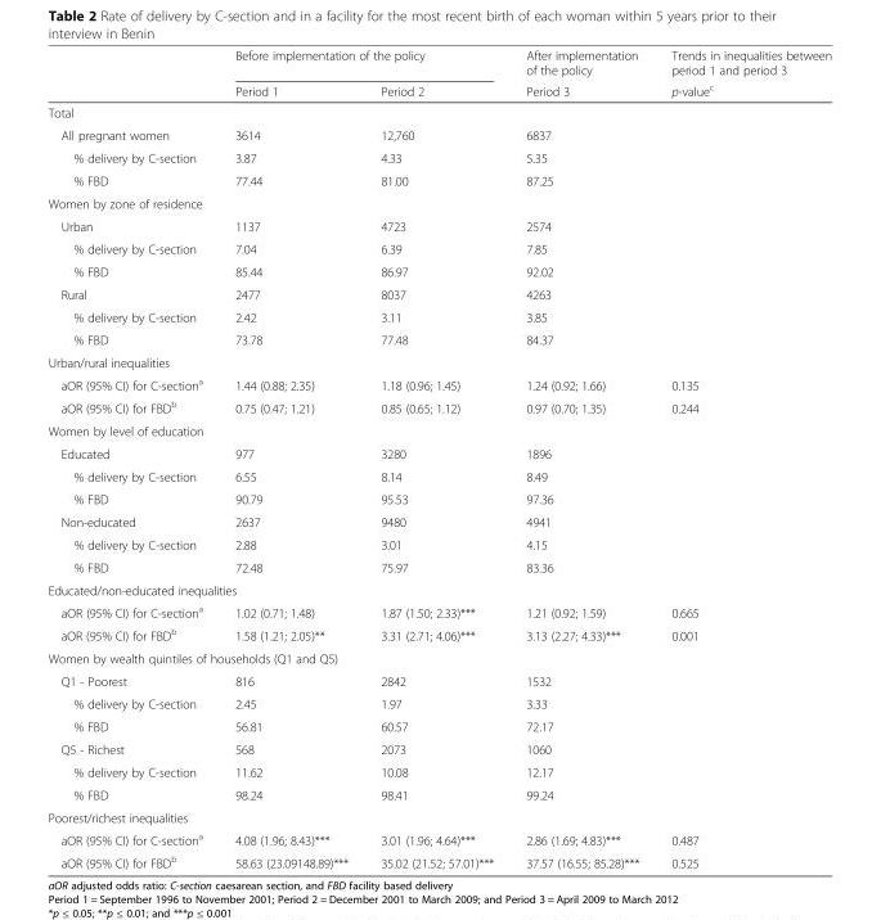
<table><thead><tr><td rowspan="2"></td><td colspan="2">Before implementation of the policy</td><td rowspan="2">After implementation of the policy Period 3</td><td rowspan="2">Trends in inequalities between period 1 and period 3 p-value<sup>c</sup></td></tr><tr><td>Period 1</td><td>Period 2</td></tr></thead><tbody><tr><td colspan="5">Total</td></tr><tr><td>All pregnant women</td><td>3614</td><td>12,760</td><td>6837</td><td></td></tr><tr><td>% delivery by C-section</td><td>3.87</td><td>4.33</td><td>5.35</td><td></td></tr><tr><td>% FBD</td><td>77.44</td><td>81.00</td><td>87.25</td><td></td></tr><tr><td colspan="5">Women by zone of residence</td></tr><tr><td>Urban</td><td>1137</td><td>4723</td><td>2574</td><td></td></tr><tr><td>% delivery by C-section</td><td>7.04</td><td>6.39</td><td>7.85</td><td></td></tr><tr><td>% FBD</td><td>85.44</td><td>86.97</td><td>92.02</td><td></td></tr><tr><td>Rural</td><td>2477</td><td>8037</td><td>4263</td><td></td></tr><tr><td>% delivery by C-section</td><td>2.42</td><td>3.11</td><td>3.85</td><td></td></tr><tr><td>% FBD</td><td>73.78</td><td>77.48</td><td>84.37</td><td></td></tr><tr><td colspan="5">Urban/rural inequalities</td></tr><tr><td>aOR (95% CI) for C-section<sup>a</sup></td><td>1.44 (0.88; 2.35)</td><td>1.18 (0.96; 1.45)</td><td>1.24 (0.92; 1.66)</td><td>0.135</td></tr><tr><td>aOR (95% CI) for FBD<sup>b</sup></td><td>0.75 (0.47; 1.21)</td><td>0.85 (0.65; 1.12)</td><td>0.97 (0.70; 1.35)</td><td>0.244</td></tr><tr><td colspan="5">Women by level of education</td></tr><tr><td>Educated</td><td>977</td><td>3280</td><td>1896</td><td></td></tr><tr><td>% delivery by C-section</td><td>6.55</td><td>8.14</td><td>8.49</td><td></td></tr><tr><td>% FBD</td><td>90.79</td><td>95.53</td><td>97.36</td><td></td></tr><tr><td>Non-educated</td><td>2637</td><td>9480</td><td>4941</td><td></td></tr><tr><td>% delivery by C-section</td><td>2.88</td><td>3.01</td><td>4.15</td><td></td></tr><tr><td>% FBD</td><td>72.48</td><td>75.97</td><td>83.36</td><td></td></tr><tr><td colspan="5">Educated/non-educated inequalities</td></tr><tr><td>aOR (95% CI) for C-section<sup>a</sup></td><td>1.02 (0.71; 1.48)</td><td>1.87 (1.50; 2.33)***</td><td>1.21 (0.92; 1.59)</td><td>0.665</td></tr><tr><td>aOR (95% CI) for FBD<sup>b</sup></td><td>1.58 (1.21; 2.05)**</td><td>3.31 (2.71; 4.06)***</td><td>3.13 (2.27; 4.33)***</td><td>0.001</td></tr><tr><td colspan="5">Women by wealth quintiles of households (Q1 and Q5)</td></tr><tr><td>Q1 - Poorest</td><td>816</td><td>2842</td><td>1532</td><td></td></tr><tr><td>% delivery by C-section</td><td>2.45</td><td>1.97</td><td>3.33</td><td></td></tr><tr><td>% FBD</td><td>56.81</td><td>60.57</td><td>72.17</td><td></td></tr><tr><td>Q5 - Richest</td><td>568</td><td>2073</td><td>1060</td><td></td></tr><tr><td>% delivery by C-section</td><td>11.62</td><td>10.08</td><td>12.17</td><td></td></tr><tr><td>% FBD</td><td>98.24</td><td>98.41</td><td>99.24</td><td></td></tr><tr><td colspan="5">Poorest/richest inequalities</td></tr><tr><td>aOR (95% CI) for C-section<sup>a</sup></td><td>4.08 (1.96; 8.43)***</td><td>3.01 (1.96; 4.64)***</td><td>2.86 (1.69; 4.83)***</td><td>0.487</td></tr><tr><td>aOR (95% CI) for FBD<sup>b</sup></td><td>58.63 (23.09148.89)***</td><td>35.02 (21.52; 57.01)***</td><td>37.57 (16.55; 85.28)***</td><td>0.525</td></tr></tbody></table>